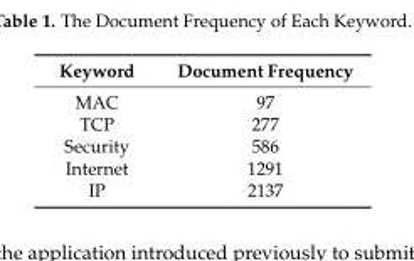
<table><thead><tr><td>Keyword</td><td>Document Frequency</td></tr></thead><tbody><tr><td>MAC</td><td>97</td></tr><tr><td>TCP</td><td>277</td></tr><tr><td>Security</td><td>586</td></tr><tr><td>Internet</td><td>1291</td></tr><tr><td>IP</td><td>2137</td></tr></tbody></table>